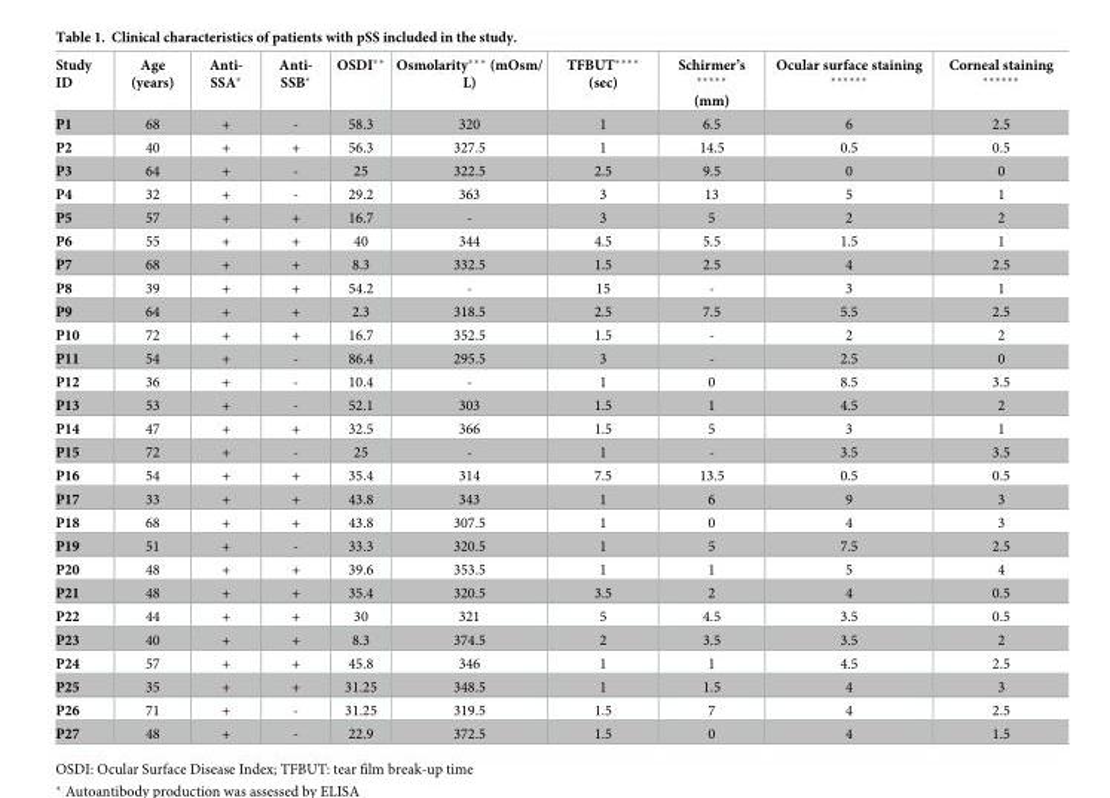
<table><thead><tr><td>Study ID</td><td>Age (years)</td><td>Anti- SSA*</td><td>Anti- SSB*</td><td>OSDI**</td><td>Osmolarity*** (mOsm/ L)</td><td>TFBUT**** (sec)</td><td>Schirmer’s ***** (mm)</td><td>Ocular surface staining ******</td><td>Corneal staining ******</td></tr></thead><tbody><tr><td>P1</td><td>68</td><td>+</td><td>-</td><td>58.3</td><td>320</td><td>1</td><td>6.5</td><td>6</td><td>2.5</td></tr><tr><td>P2</td><td>40</td><td>+</td><td>+</td><td>56.3</td><td>327.5</td><td>1</td><td>14.5</td><td>0.5</td><td>0.5</td></tr><tr><td>P3</td><td>64</td><td>+</td><td>-</td><td>25</td><td>322.5</td><td>2.5</td><td>9.5</td><td>0</td><td>0</td></tr><tr><td>P4</td><td>32</td><td>+</td><td>-</td><td>29.2</td><td>363</td><td>3</td><td>13</td><td>5</td><td>1</td></tr><tr><td>P5</td><td>57</td><td>+</td><td>+</td><td>16.7</td><td>-</td><td>3</td><td>5</td><td>2</td><td>2</td></tr><tr><td>P6</td><td>55</td><td>+</td><td>+</td><td>40</td><td>344</td><td>4.5</td><td>5.5</td><td>1.5</td><td>1</td></tr><tr><td>P7</td><td>68</td><td>+</td><td>+</td><td>8.3</td><td>332.5</td><td>1.5</td><td>2.5</td><td>4</td><td>2.5</td></tr><tr><td>P8</td><td>39</td><td>+</td><td>+</td><td>54.2</td><td>-</td><td>15</td><td>-</td><td>3</td><td>1</td></tr><tr><td>P9</td><td>64</td><td>+</td><td>+</td><td>2.3</td><td>318.5</td><td>2.5</td><td>7.5</td><td>5.5</td><td>2.5</td></tr><tr><td>P10</td><td>72</td><td>+</td><td>+</td><td>16.7</td><td>352.5</td><td>1.5</td><td>-</td><td>2</td><td>2</td></tr><tr><td>P11</td><td>54</td><td>+</td><td>-</td><td>86.4</td><td>295.5</td><td>3</td><td>-</td><td>2.5</td><td>0</td></tr><tr><td>P12</td><td>36</td><td>+</td><td>-</td><td>10.4</td><td>-</td><td>1</td><td>0</td><td>8.5</td><td>3.5</td></tr><tr><td>P13</td><td>53</td><td>+</td><td>-</td><td>52.1</td><td>303</td><td>1.5</td><td>1</td><td>4.5</td><td>2</td></tr><tr><td>P14</td><td>47</td><td>+</td><td>+</td><td>32.5</td><td>366</td><td>1.5</td><td>5</td><td>3</td><td>1</td></tr><tr><td>P15</td><td>72</td><td>+</td><td>-</td><td>25</td><td>-</td><td>1</td><td>-</td><td>3.5</td><td>3.5</td></tr><tr><td>P16</td><td>54</td><td>+</td><td>+</td><td>35.4</td><td>314</td><td>7.5</td><td>13.5</td><td>0.5</td><td>0.5</td></tr><tr><td>P17</td><td>33</td><td>+</td><td>+</td><td>43.8</td><td>343</td><td>1</td><td>6</td><td>9</td><td>3</td></tr><tr><td>P18</td><td>68</td><td>+</td><td>+</td><td>43.8</td><td>307.5</td><td>1</td><td>0</td><td>4</td><td>3</td></tr><tr><td>P19</td><td>51</td><td>+</td><td>-</td><td>33.3</td><td>320.5</td><td>1</td><td>5</td><td>7.5</td><td>2.5</td></tr><tr><td>P20</td><td>48</td><td>+</td><td>+</td><td>39.6</td><td>353.5</td><td>1</td><td>1</td><td>5</td><td>4</td></tr><tr><td>P21</td><td>48</td><td>+</td><td>+</td><td>35.4</td><td>320.5</td><td>3.5</td><td>2</td><td>4</td><td>0.5</td></tr><tr><td>P22</td><td>44</td><td>+</td><td>+</td><td>30</td><td>321</td><td>5</td><td>4.5</td><td>3.5</td><td>0.5</td></tr><tr><td>P23</td><td>40</td><td>+</td><td>+</td><td>8.3</td><td>374.5</td><td>2</td><td>3.5</td><td>3.5</td><td>2</td></tr><tr><td>P24</td><td>57</td><td>+</td><td>+</td><td>45.8</td><td>346</td><td>1</td><td>1</td><td>4.5</td><td>2.5</td></tr><tr><td>P25</td><td>35</td><td>+</td><td>+</td><td>31.25</td><td>348.5</td><td>1</td><td>1.5</td><td>4</td><td>3</td></tr><tr><td>P26</td><td>71</td><td>+</td><td>-</td><td>31.25</td><td>319.5</td><td>1.5</td><td>7</td><td>4</td><td>2.5</td></tr><tr><td>P27</td><td>48</td><td>+</td><td>-</td><td>22.9</td><td>372.5</td><td>1.5</td><td>0</td><td>4</td><td>1.5</td></tr></tbody></table>